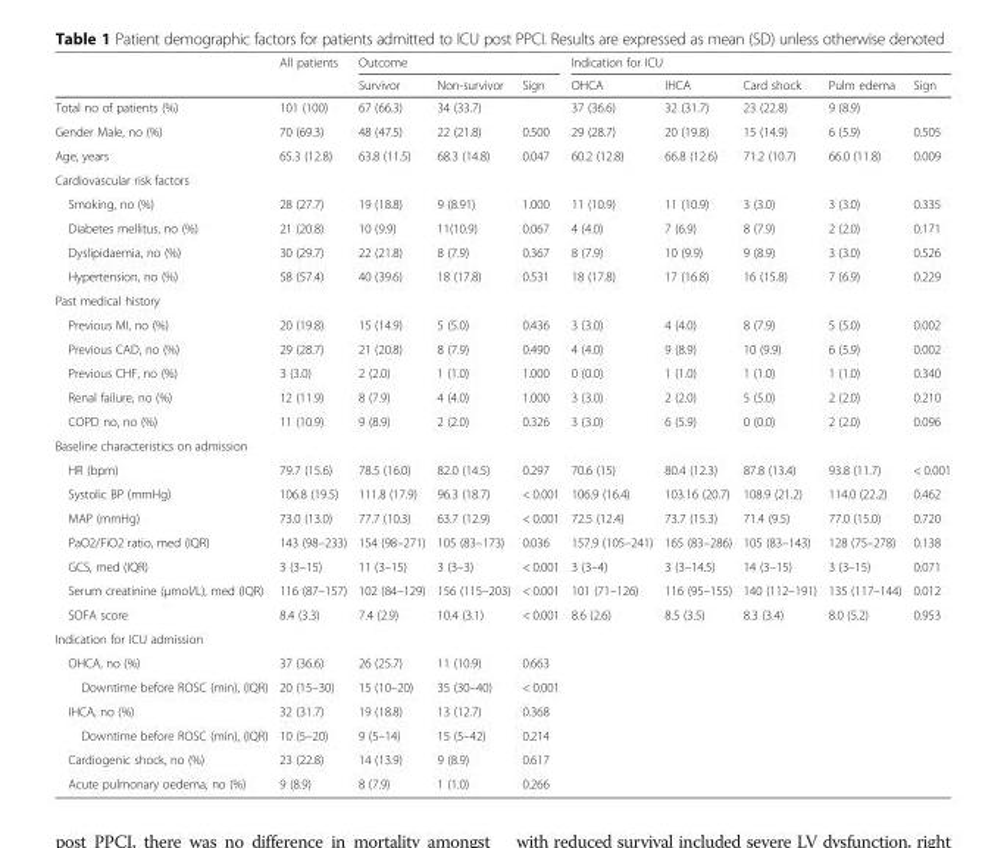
<table><thead><tr><td rowspan="2"></td><td rowspan="2">All patients</td><td colspan="3">Outcome</td><td colspan="5">Indication for ICU</td></tr><tr><td>Survivor</td><td>Non-survivor</td><td>Sign</td><td>OHCA</td><td>IHCA</td><td>Card shock</td><td>Pulm edema</td><td>Sign</td></tr></thead><tbody><tr><td>Total no of patients (%)</td><td>101 (100)</td><td>67 (66.3)</td><td>34 (33.7)</td><td></td><td>37 (36.6)</td><td>32 (31.7)</td><td>23 (22.8)</td><td>9 (8.9)</td><td></td></tr><tr><td>Gender Male, no (%)</td><td>70 (69.3)</td><td>48 (47.5)</td><td>22 (21.8)</td><td>0.500</td><td>29 (28.7)</td><td>20 (19.8)</td><td>15 (14.9)</td><td>6 (5.9)</td><td>0.505</td></tr><tr><td>Age, years</td><td>65.3 (12.8)</td><td>63.8 (11.5)</td><td>68.3 (14.8)</td><td>0.047</td><td>60.2 (12.8)</td><td>66.8 (12.6)</td><td>71.2 (10.7)</td><td>66.0 (11.8)</td><td>0.009</td></tr><tr><td colspan="10">Cardiovascular risk factors</td></tr><tr><td>Smoking, no (%)</td><td>28 (27.7)</td><td>19 (18.8)</td><td>9 (8.91)</td><td>1.000</td><td>11 (10.9)</td><td>11 (10.9)</td><td>3 (3.0)</td><td>3 (3.0)</td><td>0.335</td></tr><tr><td>Diabetes mellitus, no (%)</td><td>21 (20.8)</td><td>10 (9.9)</td><td>11(10.9)</td><td>0.067</td><td>4 (4.0)</td><td>7 (6.9)</td><td>8 (7.9)</td><td>2 (2.0)</td><td>0.171</td></tr><tr><td>Dyslipidaemia, no (%)</td><td>30 (29.7)</td><td>22 (21.8)</td><td>8 (7.9)</td><td>0.367</td><td>8 (7.9)</td><td>10 (9.9)</td><td>9 (8.9)</td><td>3 (3.0)</td><td>0.526</td></tr><tr><td>Hypertension, no (%)</td><td>58 (57.4)</td><td>40 (39.6)</td><td>18 (17.8)</td><td>0.531</td><td>18 (17.8)</td><td>17 (16.8)</td><td>16 (15.8)</td><td>7 (6.9)</td><td>0.229</td></tr><tr><td colspan="10">Past medical history</td></tr><tr><td>Previous MI, no (%)</td><td>20 (19.8)</td><td>15 (14.9)</td><td>5 (5.0)</td><td>0.436</td><td>3 (3.0)</td><td>4 (4.0)</td><td>8 (7.9)</td><td>5 (5.0)</td><td>0.002</td></tr><tr><td>Previous CAD, no (%)</td><td>29 (28.7)</td><td>21 (20.8)</td><td>8 (7.9)</td><td>0.490</td><td>4 (4.0)</td><td>9 (8.9)</td><td>10 (9.9)</td><td>6 (5.9)</td><td>0.002</td></tr><tr><td>Previous CHF, no (%)</td><td>3 (3.0)</td><td>2 (2.0)</td><td>1 (1.0)</td><td>1.000</td><td>0 (0.0)</td><td>1 (1.0)</td><td>1 (1.0)</td><td>1 (1.0)</td><td>0.340</td></tr><tr><td>Renal failure, no (%)</td><td>12 (11.9)</td><td>8 (7.9)</td><td>4 (4.0)</td><td>1.000</td><td>3 (3.0)</td><td>2 (2.0)</td><td>5 (5.0)</td><td>2 (2.0)</td><td>0.210</td></tr><tr><td>COPD no, no (%)</td><td>11 (10.9)</td><td>9 (8.9)</td><td>2 (2.0)</td><td>0.326</td><td>3 (3.0)</td><td>6 (5.9)</td><td>0 (0.0)</td><td>2 (2.0)</td><td>0.096</td></tr><tr><td colspan="10">Baseline characteristics on admission</td></tr><tr><td>HR (bpm)</td><td>79.7 (15.6)</td><td>78.5 (16.0)</td><td>82.0 (14.5)</td><td>0.297</td><td>70.6 (15)</td><td>80.4 (12.3)</td><td>87.8 (13.4)</td><td>93.8 (11.7)</td><td>&lt; 0.001</td></tr><tr><td>Systolic BP (mmHg)</td><td>106.8 (19.5)</td><td>111.8 (17.9)</td><td>96.3 (18.7)</td><td>&lt; 0.001</td><td>106.9 (16.4)</td><td>103.16 (20.7)</td><td>108.9 (21.2)</td><td>114.0 (22.2)</td><td>0.462</td></tr><tr><td>MAP (mmHg)</td><td>73.0 (13.0)</td><td>77.7 (10.3)</td><td>63.7 (12.9)</td><td>&lt; 0.001</td><td>72.5 (12.4)</td><td>73.7 (15.3)</td><td>71.4 (9.5)</td><td>77.0 (15.0)</td><td>0.720</td></tr><tr><td>PaO2/FiO2 ratio, med (IQR)</td><td>143 (98–233)</td><td>154 (98–271)</td><td>105 (83–173)</td><td>0.036</td><td>157.9 (105–241)</td><td>165 (83–286)</td><td>105 (83–143)</td><td>128 (75–278)</td><td>0.138</td></tr><tr><td>GCS, med (IQR)</td><td>3 (3–15)</td><td>11 (3–15)</td><td>3 (3–3)</td><td>&lt; 0.001</td><td>3 (3–4)</td><td>3 (3–14.5)</td><td>14 (3–15)</td><td>3 (3–15)</td><td>0.071</td></tr><tr><td>Serum creatinine (μmol/L), med (IQR)</td><td>116 (87–157)</td><td>102 (84–129)</td><td>156 (115–203)</td><td>&lt; 0.001</td><td>101 (71–126)</td><td>116 (95–155)</td><td>140 (112–191)</td><td>135 (117–144)</td><td>0.012</td></tr><tr><td>SOFA score</td><td>8.4 (3.3)</td><td>7.4 (2.9)</td><td>10.4 (3.1)</td><td>&lt; 0.001</td><td>8.6 (2.6)</td><td>8.5 (3.5)</td><td>8.3 (3.4)</td><td>8.0 (5.2)</td><td>0.953</td></tr><tr><td colspan="10">Indication for ICU admission</td></tr><tr><td>OHCA, no (%)</td><td>37 (36.6)</td><td>26 (25.7)</td><td>11 (10.9)</td><td>0.663</td><td></td><td></td><td></td><td></td><td></td></tr><tr><td>Downtime before ROSC (min), (IQR)</td><td>20 (15–30)</td><td>15 (10–20)</td><td>35 (30–40)</td><td>&lt; 0.001</td><td></td><td></td><td></td><td></td><td></td></tr><tr><td>IHCA, no (%)</td><td>32 (31.7)</td><td>19 (18.8)</td><td>13 (12.7)</td><td>0.368</td><td></td><td></td><td></td><td></td><td></td></tr><tr><td>Downtime before ROSC (min), (IQR)</td><td>10 (5–20)</td><td>9 (5–14)</td><td>15 (5–42)</td><td>0.214</td><td></td><td></td><td></td><td></td><td></td></tr><tr><td>Cardiogenic shock, no (%)</td><td>23 (22.8)</td><td>14 (13.9)</td><td>9 (8.9)</td><td>0.617</td><td></td><td></td><td></td><td></td><td></td></tr><tr><td>Acute pulmonary oedema, no (%)</td><td>9 (8.9)</td><td>8 (7.9)</td><td>1 (1.0)</td><td>0.266</td><td></td><td></td><td></td><td></td><td></td></tr></tbody></table>